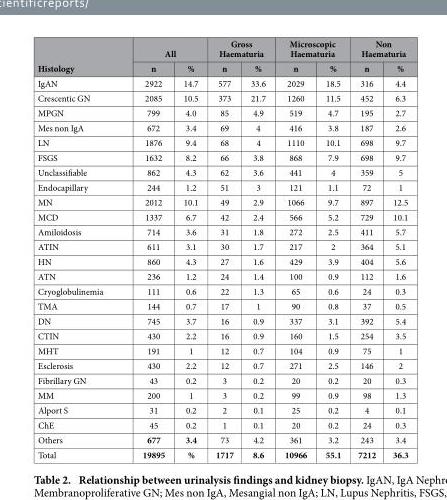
<table><thead><tr><td rowspan="2">Histology</td><td colspan="2">All</td><td colspan="2">Gross Haematuria</td><td colspan="2">Microscopic Haematuria</td><td colspan="2">Non Haematuria</td></tr><tr><td>n</td><td>%</td><td>n</td><td>%</td><td>n</td><td>%</td><td>n</td><td>%</td></tr></thead><tbody><tr><td>IgAN</td><td>2922</td><td>14.7</td><td>577</td><td>33.6</td><td>2029</td><td>18.5</td><td>316</td><td>4.4</td></tr><tr><td>Crescentic GN</td><td>2085</td><td>10.5</td><td>373</td><td>21.7</td><td>1260</td><td>11.5</td><td>452</td><td>6.3</td></tr><tr><td>MPGN</td><td>799</td><td>4.0</td><td>85</td><td>4.9</td><td>519</td><td>4.7</td><td>195</td><td>2.7</td></tr><tr><td>Mes non IgA</td><td>672</td><td>3.4</td><td>69</td><td>4</td><td>416</td><td>3.8</td><td>187</td><td>2.6</td></tr><tr><td>LN</td><td>1876</td><td>9.4</td><td>68</td><td>4</td><td>1110</td><td>10.1</td><td>698</td><td>9.7</td></tr><tr><td>FSGS</td><td>1632</td><td>8.2</td><td>66</td><td>3.8</td><td>868</td><td>7.9</td><td>698</td><td>9.7</td></tr><tr><td>Unclassifiable</td><td>862</td><td>4.3</td><td>62</td><td>3.6</td><td>441</td><td>4</td><td>359</td><td>5</td></tr><tr><td>Endocapillary</td><td>244</td><td>1.2</td><td>51</td><td>3</td><td>121</td><td>1.1</td><td>72</td><td>1</td></tr><tr><td>MN</td><td>2012</td><td>10.1</td><td>49</td><td>2.9</td><td>1066</td><td>9.7</td><td>897</td><td>12.5</td></tr><tr><td>MCD</td><td>1337</td><td>6.7</td><td>42</td><td>2.4</td><td>566</td><td>5.2</td><td>729</td><td>10.1</td></tr><tr><td>Amiloidosis</td><td>714</td><td>3.6</td><td>31</td><td>1.8</td><td>272</td><td>2.5</td><td>411</td><td>5.7</td></tr><tr><td>ATIN</td><td>611</td><td>3.1</td><td>30</td><td>1.7</td><td>217</td><td>2</td><td>364</td><td>5.1</td></tr><tr><td>HN</td><td>860</td><td>4.3</td><td>27</td><td>1.6</td><td>429</td><td>3.9</td><td>404</td><td>5.6</td></tr><tr><td>ATN</td><td>236</td><td>1.2</td><td>24</td><td>1.4</td><td>100</td><td>0.9</td><td>112</td><td>1.6</td></tr><tr><td>Cryoglobulinemia</td><td>111</td><td>0.6</td><td>22</td><td>1.3</td><td>65</td><td>0.6</td><td>24</td><td>0.3</td></tr><tr><td>TMA</td><td>144</td><td>0.7</td><td>17</td><td>1</td><td>90</td><td>0.8</td><td>37</td><td>0.5</td></tr><tr><td>DN</td><td>745</td><td>3.7</td><td>16</td><td>0.9</td><td>337</td><td>3.1</td><td>392</td><td>5.4</td></tr><tr><td>CTIN</td><td>430</td><td>2.2</td><td>16</td><td>0.9</td><td>160</td><td>1.5</td><td>254</td><td>3.5</td></tr><tr><td>MHT</td><td>191</td><td>1</td><td>12</td><td>0.7</td><td>104</td><td>0.9</td><td>75</td><td>1</td></tr><tr><td>Esclerosis</td><td>430</td><td>2.2</td><td>12</td><td>0.7</td><td>271</td><td>2.5</td><td>146</td><td>2</td></tr><tr><td>Fibrillary GN</td><td>43</td><td>0.2</td><td>3</td><td>0.2</td><td>20</td><td>0.2</td><td>20</td><td>0.3</td></tr><tr><td>MM</td><td>200</td><td>1</td><td>3</td><td>0.2</td><td>99</td><td>0.9</td><td>98</td><td>1.3</td></tr><tr><td>Alport S</td><td>31</td><td>0.2</td><td>2</td><td>0.1</td><td>25</td><td>0.2</td><td>4</td><td>0.1</td></tr><tr><td>ChE</td><td>45</td><td>0.2</td><td>1</td><td>0.1</td><td>20</td><td>0.2</td><td>24</td><td>0.3</td></tr><tr><td>Others</td><td>677</td><td>3.4</td><td>73</td><td>4.2</td><td>361</td><td>3.2</td><td>243</td><td>3.4</td></tr><tr><td>Total</td><td>19895</td><td>%</td><td>1717</td><td>8.6</td><td>10966</td><td>55.1</td><td>7212</td><td>36.3</td></tr></tbody></table>